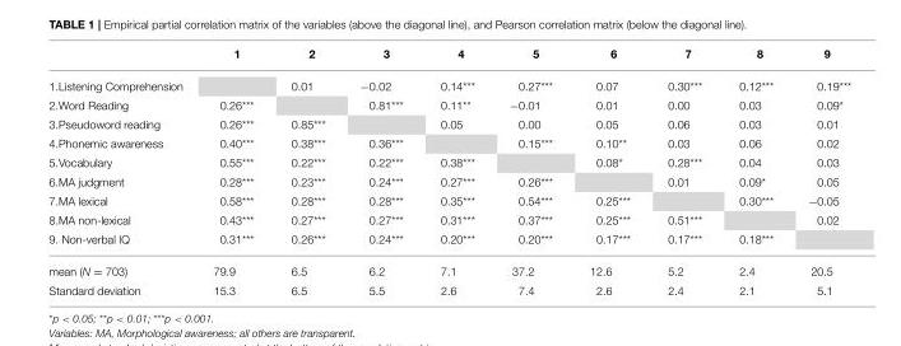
<table><thead><tr><td></td><td>1</td><td>2</td><td>3</td><td>4</td><td>5</td><td>6</td><td>7</td><td>8</td><td>9</td></tr></thead><tbody><tr><td>1.Listening Comprehension</td><td></td><td>0.01</td><td>−0.02</td><td>0.14***</td><td>0.27***</td><td>0.07</td><td>0.30***</td><td>0.12***</td><td>0.19***</td></tr><tr><td>2.Word Reading</td><td>0.26***</td><td></td><td>0.81***</td><td>0.11**</td><td>−0.01</td><td>0.01</td><td>0.00</td><td>0.03</td><td>0.09*</td></tr><tr><td>3.Pseudoword reading</td><td>0.26***</td><td>0.85***</td><td></td><td>0.05</td><td>0.00</td><td>0.05</td><td>0.06</td><td>0.03</td><td>0.01</td></tr><tr><td>4.Phonemic awareness</td><td>0.40***</td><td>0.38***</td><td>0.36***</td><td></td><td>0.15***</td><td>0.10**</td><td>0.03</td><td>0.06</td><td>0.02</td></tr><tr><td>5.Vocabulary</td><td>0.55***</td><td>0.22***</td><td>0.22***</td><td>0.38***</td><td></td><td>0.08*</td><td>0.28***</td><td>0.04</td><td>0.03</td></tr><tr><td>6.MA judgment</td><td>0.28***</td><td>0.23***</td><td>0.24***</td><td>0.27***</td><td>0.26***</td><td></td><td>0.01</td><td>0.09*</td><td>0.05</td></tr><tr><td>7.MA lexical</td><td>0.58***</td><td>0.28***</td><td>0.28***</td><td>0.35***</td><td>0.54***</td><td>0.25***</td><td></td><td>0.30***</td><td>−0.05</td></tr><tr><td>8.MA non-lexical</td><td>0.43***</td><td>0.27***</td><td>0.27***</td><td>0.31***</td><td>0.37***</td><td>0.25***</td><td>0.51***</td><td></td><td>0.02</td></tr><tr><td>9. Non-verbal IQ</td><td>0.31***</td><td>0.26***</td><td>0.24***</td><td>0.20***</td><td>0.20***</td><td>0.17***</td><td>0.17***</td><td>0.18***</td><td></td></tr><tr><td>mean (N = 703)</td><td>79.9</td><td>6.5</td><td>6.2</td><td>7.1</td><td>37.2</td><td>12.6</td><td>5.2</td><td>2.4</td><td>20.5</td></tr><tr><td>Standard deviation</td><td>15.3</td><td>6.5</td><td>5.5</td><td>2.6</td><td>7.4</td><td>2.6</td><td>2.4</td><td>2.1</td><td>5.1</td></tr></tbody></table>